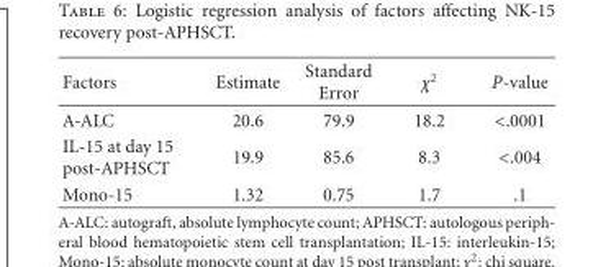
<table><thead><tr><td>Factors</td><td>Estimate</td><td>Standard Error</td><td>χ<sup>2</sup></td><td>P-value</td></tr></thead><tbody><tr><td>A-ALC</td><td>20.6</td><td>79.9</td><td>18.2</td><td>&lt;.0001</td></tr><tr><td>IL-15 at day 15 post-APHSCT</td><td>19.9</td><td>85.6</td><td>8.3</td><td>&lt;.004</td></tr><tr><td>Mono-15</td><td>1.32</td><td>0.75</td><td>1.7</td><td>.1</td></tr></tbody></table>